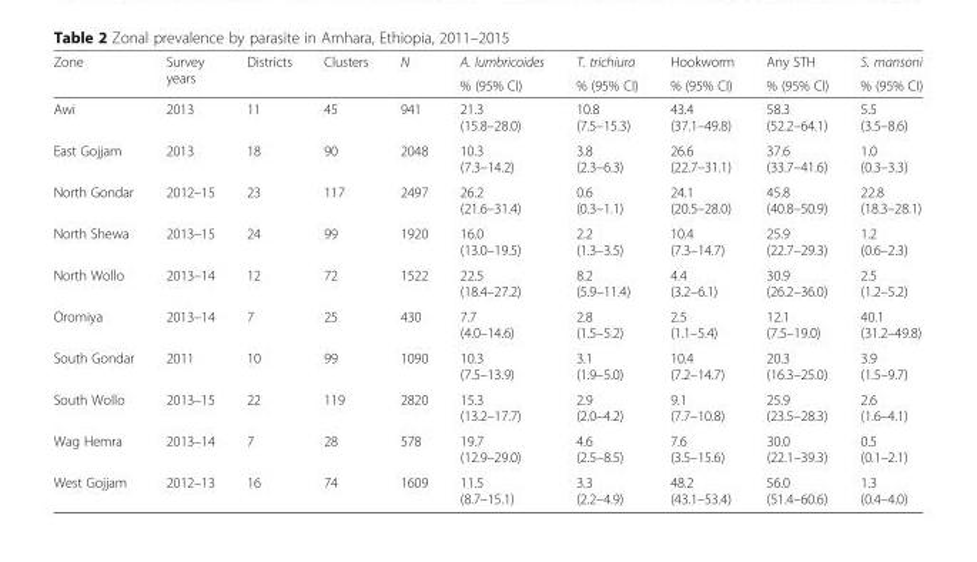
<table><thead><tr><td rowspan="2">Zone</td><td rowspan="2">Survey years</td><td rowspan="2">Districts</td><td rowspan="2">Clusters</td><td rowspan="2">N</td><td rowspan="2">A. lumbricoides % (95% CI)</td><td rowspan="2">T. trichiura % (95% CI)</td><td rowspan="2">Hookworm % (95% CI)</td><td rowspan="2">Any STH % (95% CI)</td><td rowspan="2">S. mansoni % (95% CI)</td></tr><tr></tr></thead><tbody><tr><td>Awi</td><td>2013</td><td>11</td><td>45</td><td>941</td><td>21.3 (15.8–28.0)</td><td>10.8 (7.5–15.3)</td><td>43.4 (37.1–49.8)</td><td>58.3 (52.2–64.1)</td><td>5.5 (3.5–8.6)</td></tr><tr><td>East Gojjam</td><td>2013</td><td>18</td><td>90</td><td>2048</td><td>10.3 (7.3–14.2)</td><td>3.8 (2.3–6.3)</td><td>26.6 (22.7–31.1)</td><td>37.6 (33.7–41.6)</td><td>1.0 (0.3–3.3)</td></tr><tr><td>North Gondar</td><td>2012–15</td><td>23</td><td>117</td><td>2497</td><td>26.2 (21.6–31.4)</td><td>0.6 (0.3–1.1)</td><td>24.1 (20.5–28.0)</td><td>45.8 (40.8–50.9)</td><td>22.8 (18.3–28.1)</td></tr><tr><td>North Shewa</td><td>2013–15</td><td>24</td><td>99</td><td>1920</td><td>16.0 (13.0–19.5)</td><td>2.2 (1.3–3.5)</td><td>10.4 (7.3–14.7)</td><td>25.9 (22.7–29.3)</td><td>1.2 (0.6–2.3)</td></tr><tr><td>North Wollo</td><td>2013–14</td><td>12</td><td>72</td><td>1522</td><td>22.5 (18.4–27.2)</td><td>8.2 (5.9–11.4)</td><td>4.4 (3.2–6.1)</td><td>30.9 (26.2–36.0)</td><td>2.5 (1.2–5.2)</td></tr><tr><td>Oromiya</td><td>2013–14</td><td>7</td><td>25</td><td>430</td><td>7.7 (4.0–14.6)</td><td>2.8 (1.5–5.2)</td><td>2.5 (1.1–5.4)</td><td>12.1 (7.5–19.0)</td><td>40.1 (31.2–49.8)</td></tr><tr><td>South Gondar</td><td>2011</td><td>10</td><td>99</td><td>1090</td><td>10.3 (7.5–13.9)</td><td>3.1 (1.9–5.0)</td><td>10.4 (7.2–14.7)</td><td>20.3 (16.3–25.0)</td><td>3.9 (1.5–9.7)</td></tr><tr><td>South Wollo</td><td>2013–15</td><td>22</td><td>119</td><td>2820</td><td>15.3 (13.2–17.7)</td><td>2.9 (2.0–4.2)</td><td>9.1 (7.7–10.8)</td><td>25.9 (23.5–28.3)</td><td>2.6 (1.6–4.1)</td></tr><tr><td>Wag Hemra</td><td>2013–14</td><td>7</td><td>28</td><td>578</td><td>19.7 (12.9–29.0)</td><td>4.6 (2.5–8.5)</td><td>7.6 (3.5–15.6)</td><td>30.0 (22.1–39.3)</td><td>0.5 (0.1–2.1)</td></tr><tr><td>West Gojjam</td><td>2012–13</td><td>16</td><td>74</td><td>1609</td><td>11.5 (8.7–15.1)</td><td>3.3 (2.2–4.9)</td><td>48.2 (43.1–53.4)</td><td>56.0 (51.4–60.6)</td><td>1.3 (0.4–4.0)</td></tr></tbody></table>